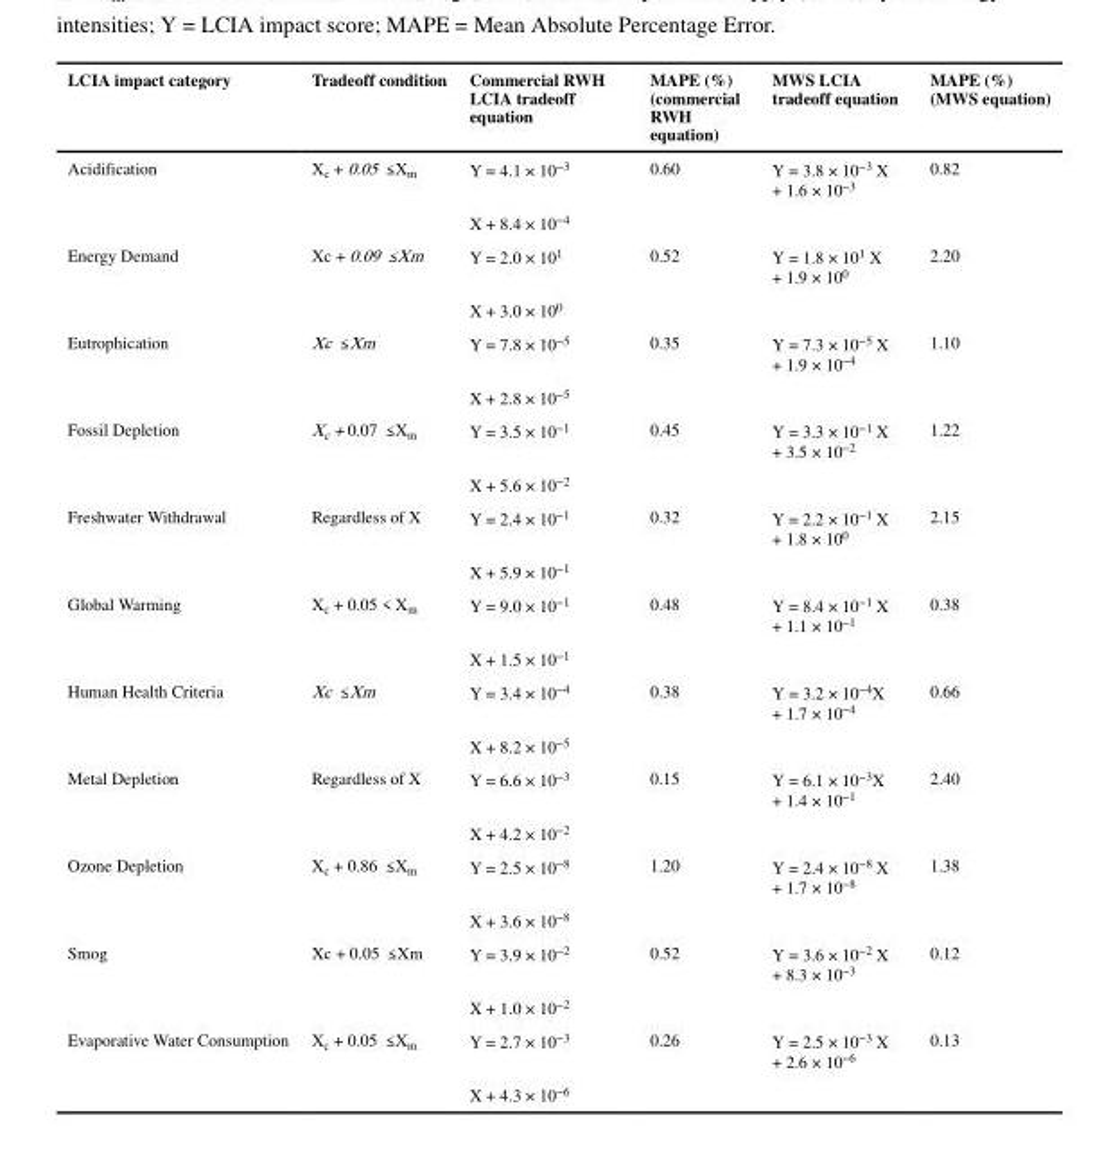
<table><thead><tr><td>LCIA impact category</td><td>Tradeoff condition</td><td>Commercial RWH LCIA tradeoff equation</td><td>MAPE (%) (commercial RWH equation)</td><td>MWS LCIA tradeoff equation</td><td>MAPE (%) (MWS equation)</td></tr></thead><tbody><tr><td rowspan="2">Acidification</td><td>X<sub>c</sub> + 0.05 ≤ X<sub>m</sub></td><td>Y = 4.1 × 10<sup>−3</sup></td><td>0.60</td><td>Y = 3.8 × 10<sup>−3</sup> X + 1.6 × 10<sup>−3</sup></td><td>0.82</td></tr><tr><td></td><td>X + 8.4 × 10<sup>−4</sup></td><td></td><td></td><td></td></tr><tr><td rowspan="2">Energy Demand</td><td>Xc + 0.09 ≤ Xm</td><td>Y = 2.0 × 10<sup>1</sup></td><td>0.52</td><td>Y = 1.8 × 10<sup>1</sup> X + 1.9 × 10<sup>0</sup></td><td>2.20</td></tr><tr><td></td><td>X + 3.0 × 10<sup>0</sup></td><td></td><td></td><td></td></tr><tr><td rowspan="2">Eutrophication</td><td>Xc ≤ Xm</td><td>Y = 7.8 × 10<sup>−5</sup></td><td>0.35</td><td>Y = 7.3 × 10<sup>−5</sup> X + 1.9 × 10<sup>−4</sup></td><td>1.10</td></tr><tr><td></td><td>X + 2.8 × 10<sup>−5</sup></td><td></td><td></td><td></td></tr><tr><td rowspan="2">Fossil Depletion</td><td>X<sub>c</sub> + 0.07 ≤ X<sub>m</sub></td><td>Y = 3.5 × 10<sup>−1</sup></td><td>0.45</td><td>Y = 3.3 × 10<sup>−1</sup> X + 3.5 × 10<sup>−2</sup></td><td>1.22</td></tr><tr><td></td><td>X + 5.6 × 10<sup>−2</sup></td><td></td><td></td><td></td></tr><tr><td rowspan="2">Freshwater Withdrawal</td><td>Regardless of X</td><td>Y = 2.4 × 10<sup>−1</sup></td><td>0.32</td><td>Y = 2.2 × 10<sup>−1</sup> X + 1.8 × 10<sup>0</sup></td><td>2.15</td></tr><tr><td></td><td>X + 5.9 × 10<sup>−1</sup></td><td></td><td></td><td></td></tr><tr><td rowspan="2">Global Warming</td><td>X<sub>c</sub> + 0.05 &lt; X<sub>m</sub></td><td>Y = 9.0 × 10<sup>−1</sup></td><td>0.48</td><td>Y = 8.4 × 10<sup>−1</sup> X + 1.1 × 10<sup>−1</sup></td><td>0.38</td></tr><tr><td></td><td>X + 1.5 × 10<sup>−1</sup></td><td></td><td></td><td></td></tr><tr><td rowspan="2">Human Health Criteria</td><td>Xc ≤ Xm</td><td>Y = 3.4 × 10<sup>−4</sup></td><td>0.38</td><td>Y = 3.2 × 10<sup>−4</sup>X + 1.7 × 10<sup>−4</sup></td><td>0.66</td></tr><tr><td></td><td>X + 8.2 × 10<sup>−5</sup></td><td></td><td></td><td></td></tr><tr><td rowspan="2">Metal Depletion</td><td>Regardless of X</td><td>Y = 6.6 × 10<sup>−3</sup></td><td>0.15</td><td>Y = 6.1 × 10<sup>−3</sup>X + 1.4 × 10<sup>−1</sup></td><td>2.40</td></tr><tr><td></td><td>X + 4.2 × 10<sup>−2</sup></td><td></td><td></td><td></td></tr><tr><td rowspan="2">Ozone Depletion</td><td>X<sub>c</sub> + 0.86 ≤ X<sub>m</sub></td><td>Y = 2.5 × 10<sup>−8</sup></td><td>1.20</td><td>Y = 2.4 × 10<sup>−8</sup> X + 1.7 × 10<sup>−8</sup></td><td>1.38</td></tr><tr><td></td><td>X + 3.6 × 10<sup>−8</sup></td><td></td><td></td><td></td></tr><tr><td rowspan="2">Smog</td><td>Xc + 0.05 ≤ Xm</td><td>Y = 3.9 × 10<sup>−2</sup></td><td>0.52</td><td>Y = 3.6 × 10<sup>−2</sup> X + 8.3 × 10<sup>−3</sup></td><td>0.12</td></tr><tr><td></td><td>X + 1.0 × 10<sup>−2</sup></td><td></td><td></td><td></td></tr><tr><td rowspan="2">Evaporative Water Consumption</td><td>X<sub>c</sub> + 0.05 ≤ X<sub>m</sub></td><td>Y = 2.7 × 10<sup>−3</sup></td><td>0.26</td><td>Y = 2.5 × 10<sup>−3</sup> X + 2.6 × 10<sup>−6</sup></td><td>0.13</td></tr><tr><td></td><td>X + 4.3 × 10<sup>−6</sup></td><td></td><td></td><td></td></tr></tbody></table>